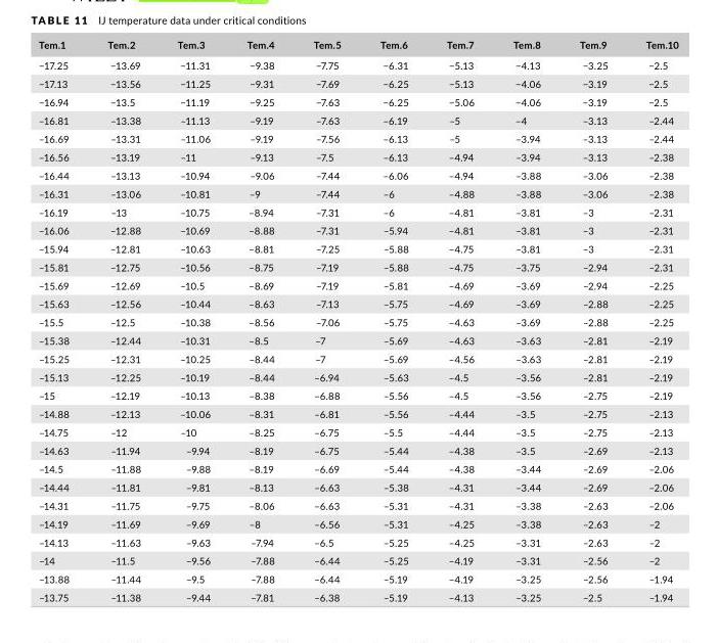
<table><thead><tr><td>Tem.1</td><td>Tem.2</td><td>Tem.3</td><td>Tem.4</td><td>Tem.5</td><td>Tem.6</td><td>Tem.7</td><td>Tem.8</td><td>Tem.9</td><td>Tem.10</td></tr></thead><tbody><tr><td>−17.25</td><td>−13.69</td><td>−11.31</td><td>−9.38</td><td>−7.75</td><td>−6.31</td><td>−5.13</td><td>−4.13</td><td>−3.25</td><td>−2.5</td></tr><tr><td>−17.13</td><td>−13.56</td><td>−11.25</td><td>−9.31</td><td>−7.69</td><td>−6.25</td><td>−5.13</td><td>−4.06</td><td>−3.19</td><td>−2.5</td></tr><tr><td>−16.94</td><td>−13.5</td><td>−11.19</td><td>−9.25</td><td>−7.63</td><td>−6.25</td><td>−5.06</td><td>−4.06</td><td>−3.19</td><td>−2.5</td></tr><tr><td>–16.81</td><td>–13.38</td><td>–11.13</td><td>–9.19</td><td>–7.63</td><td>–6.19</td><td>–5</td><td>–4</td><td>–3.13</td><td>–2.44</td></tr><tr><td>–16.69</td><td>–13.31</td><td>–11.06</td><td>–9.19</td><td>–7.56</td><td>–6.13</td><td>–5</td><td>–3.94</td><td>–3.13</td><td>–2.44</td></tr><tr><td>–16.56</td><td>–13.19</td><td>–11</td><td>–9.13</td><td>–7.5</td><td>–6.13</td><td>–4.94</td><td>–3.94</td><td>–3.13</td><td>–2.38</td></tr><tr><td>–16.44</td><td>–13.13</td><td>–10.94</td><td>–9.06</td><td>–7.44</td><td>–6.06</td><td>–4.94</td><td>–3.88</td><td>–3.06</td><td>–2.38</td></tr><tr><td>–16.31</td><td>–13.06</td><td>–10.81</td><td>–9</td><td>–7.44</td><td>–6</td><td>–4.88</td><td>–3.88</td><td>–3.06</td><td>–2.38</td></tr><tr><td>–16.19</td><td>–13</td><td>–10.75</td><td>–8.94</td><td>–7.31</td><td>–6</td><td>–4.81</td><td>–3.81</td><td>–3</td><td>–2.31</td></tr><tr><td>–16.06</td><td>–12.88</td><td>–10.69</td><td>–8.88</td><td>–7.31</td><td>–5.94</td><td>–4.81</td><td>–3.81</td><td>–3</td><td>–2.31</td></tr><tr><td>–15.94</td><td>–12.81</td><td>–10.63</td><td>–8.81</td><td>–7.25</td><td>–5.88</td><td>–4.75</td><td>–3.81</td><td>–3</td><td>–2.31</td></tr><tr><td>–15.81</td><td>–12.75</td><td>–10.56</td><td>–8.75</td><td>–7.19</td><td>–5.88</td><td>–4.75</td><td>–3.75</td><td>–2.94</td><td>–2.31</td></tr><tr><td>–15.69</td><td>–12.69</td><td>–10.5</td><td>–8.69</td><td>–7.19</td><td>–5.81</td><td>–4.69</td><td>–3.69</td><td>–2.94</td><td>–2.25</td></tr><tr><td>–15.63</td><td>–12.56</td><td>–10.44</td><td>–8.63</td><td>–7.13</td><td>–5.75</td><td>–4.69</td><td>–3.69</td><td>–2.88</td><td>–2.25</td></tr><tr><td>–15.5</td><td>–12.5</td><td>–10.38</td><td>–8.56</td><td>–7.06</td><td>–5.75</td><td>–4.63</td><td>–3.69</td><td>–2.88</td><td>–2.25</td></tr><tr><td>–15.38</td><td>–12.44</td><td>–10.31</td><td>–8.5</td><td>–7</td><td>–5.69</td><td>–4.63</td><td>–3.63</td><td>–2.81</td><td>–2.19</td></tr><tr><td>–15.25</td><td>–12.31</td><td>–10.25</td><td>–8.44</td><td>–7</td><td>–5.69</td><td>–4.56</td><td>–3.63</td><td>–2.81</td><td>–2.19</td></tr><tr><td>–15.13</td><td>–12.25</td><td>–10.19</td><td>–8.44</td><td>–6.94</td><td>–5.63</td><td>–4.5</td><td>–3.56</td><td>–2.81</td><td>–2.19</td></tr><tr><td>–15</td><td>–12.19</td><td>–10.13</td><td>–8.38</td><td>–6.88</td><td>–5.56</td><td>–4.5</td><td>–3.56</td><td>–2.75</td><td>–2.19</td></tr><tr><td>–14.88</td><td>–12.13</td><td>–10.06</td><td>–8.31</td><td>–6.81</td><td>–5.56</td><td>–4.44</td><td>–3.5</td><td>–2.75</td><td>–2.13</td></tr><tr><td>–14.75</td><td>–12</td><td>–10</td><td>–8.25</td><td>–6.75</td><td>–5.5</td><td>–4.44</td><td>–3.5</td><td>–2.75</td><td>–2.13</td></tr><tr><td>–14.63</td><td>–11.94</td><td>–9.94</td><td>–8.19</td><td>–6.75</td><td>–5.44</td><td>–4.38</td><td>–3.5</td><td>–2.69</td><td>–2.13</td></tr><tr><td>–14.5</td><td>–11.88</td><td>–9.88</td><td>–8.19</td><td>–6.69</td><td>–5.44</td><td>–4.38</td><td>–3.44</td><td>–2.69</td><td>–2.06</td></tr><tr><td>–14.44</td><td>–11.81</td><td>–9.81</td><td>–8.13</td><td>–6.63</td><td>–5.38</td><td>–4.31</td><td>–3.44</td><td>–2.69</td><td>–2.06</td></tr><tr><td>–14.31</td><td>–11.75</td><td>–9.75</td><td>–8.06</td><td>–6.63</td><td>–5.31</td><td>–4.31</td><td>–3.38</td><td>–2.63</td><td>–2.06</td></tr><tr><td>–14.19</td><td>–11.69</td><td>–9.69</td><td>–8</td><td>–6.56</td><td>–5.31</td><td>–4.25</td><td>–3.38</td><td>–2.63</td><td>–2</td></tr><tr><td>–14.13</td><td>–11.63</td><td>–9.63</td><td>–7.94</td><td>–6.5</td><td>–5.25</td><td>–4.25</td><td>–3.31</td><td>–2.63</td><td>–2</td></tr><tr><td>–14</td><td>–11.5</td><td>–9.56</td><td>–7.88</td><td>–6.44</td><td>–5.25</td><td>–4.19</td><td>–3.31</td><td>–2.56</td><td>–2</td></tr><tr><td>–13.88</td><td>–11.44</td><td>–9.5</td><td>–7.88</td><td>–6.44</td><td>–5.19</td><td>–4.19</td><td>–3.25</td><td>–2.56</td><td>–1.94</td></tr><tr><td>–13.75</td><td>–11.38</td><td>–9.44</td><td>–7.81</td><td>–6.38</td><td>–5.19</td><td>–4.13</td><td>–3.25</td><td>–2.5</td><td>–1.94</td></tr></tbody></table>